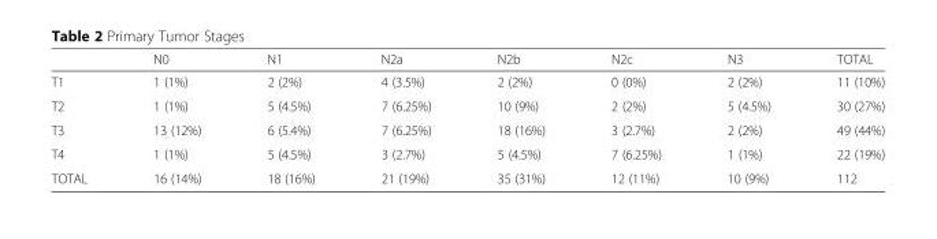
<table><thead><tr><td></td><td>N0</td><td>N1</td><td>N2a</td><td>N2b</td><td>N2c</td><td>N3</td><td>TOTAL</td></tr></thead><tbody><tr><td>T1</td><td>1 (1%)</td><td>2 (2%)</td><td>4 (3.5%)</td><td>2 (2%)</td><td>0 (0%)</td><td>2 (2%)</td><td>11 (10%)</td></tr><tr><td>T2</td><td>1 (1%)</td><td>5 (4.5%)</td><td>7 (6.25%)</td><td>10 (9%)</td><td>2 (2%)</td><td>5 (4.5%)</td><td>30 (27%)</td></tr><tr><td>T3</td><td>13 (12%)</td><td>6 (5.4%)</td><td>7 (6.25%)</td><td>18 (16%)</td><td>3 (2.7%)</td><td>2 (2%)</td><td>49 (44%)</td></tr><tr><td>T4</td><td>1 (1%)</td><td>5 (4.5%)</td><td>3 (2.7%)</td><td>5 (4.5%)</td><td>7 (6.25%)</td><td>1 (1%)</td><td>22 (19%)</td></tr><tr><td>TOTAL</td><td>16 (14%)</td><td>18 (16%)</td><td>21 (19%)</td><td>35 (31%)</td><td>12 (11%)</td><td>10 (9%)</td><td>112</td></tr></tbody></table>